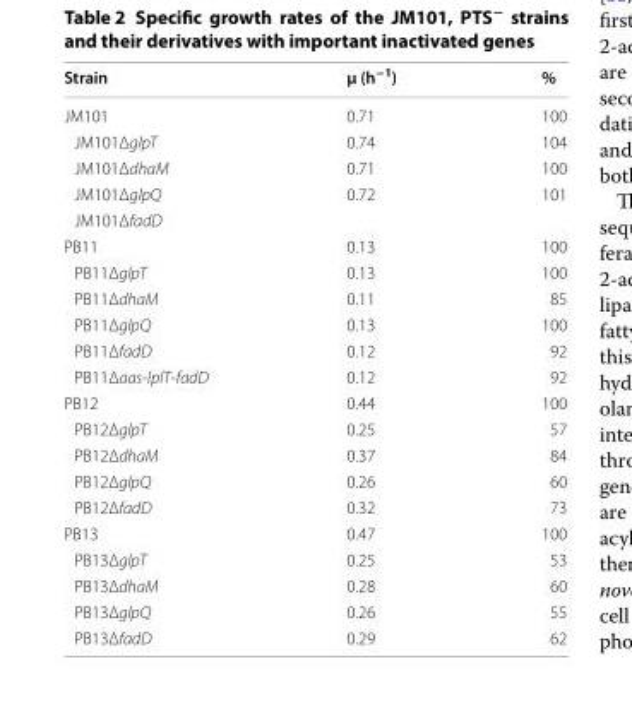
<table><thead><tr><td>Strain</td><td>μ (h<sup>−1</sup>)</td><td>%</td></tr></thead><tbody><tr><td>JM101</td><td>0.71</td><td>100</td></tr><tr><td>JM101ΔglpT</td><td>0.74</td><td>104</td></tr><tr><td>JM101ΔdhaM</td><td>0.71</td><td>100</td></tr><tr><td>JM101ΔglpQ</td><td>0.72</td><td>101</td></tr><tr><td colspan="3">JM101ΔfadD</td></tr><tr><td>PB11</td><td>0.13</td><td>100</td></tr><tr><td>PB11ΔglpT</td><td>0.13</td><td>100</td></tr><tr><td>PB11ΔdhaM</td><td>0.11</td><td>85</td></tr><tr><td>PB11ΔglpQ</td><td>0.13</td><td>100</td></tr><tr><td>PB11ΔfadD</td><td>0.12</td><td>92</td></tr><tr><td>PB11Δaas‑lplT‑fadD</td><td>0.12</td><td>92</td></tr><tr><td>PB12</td><td>0.44</td><td>100</td></tr><tr><td>PB12ΔglpT</td><td>0.25</td><td>57</td></tr><tr><td>PB12ΔdhaM</td><td>0.37</td><td>84</td></tr><tr><td>PB12ΔglpQ</td><td>0.26</td><td>60</td></tr><tr><td>PB12ΔfadD</td><td>0.32</td><td>73</td></tr><tr><td>PB13</td><td>0.47</td><td>100</td></tr><tr><td>PB13ΔglpT</td><td>0.25</td><td>53</td></tr><tr><td>PB13ΔdhaM</td><td>0.28</td><td>60</td></tr><tr><td>PB13ΔglpQ</td><td>0.26</td><td>55</td></tr><tr><td>PB13ΔfadD</td><td>0.29</td><td>62</td></tr></tbody></table>